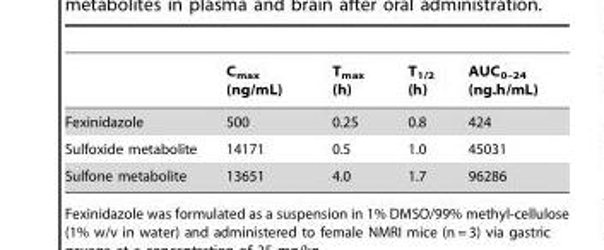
<table><thead><tr><td></td><td>C<sub>max</sub> (ng/mL)</td><td>T<sub>max</sub> (h)</td><td>T<sub>1/2</sub> (h)</td><td>AUC<sub>0–24</sub> (ng.h/mL)</td></tr></thead><tbody><tr><td>Fexinidazole</td><td>500</td><td>0.25</td><td>0.8</td><td>424</td></tr><tr><td>Sulfoxide metabolite</td><td>14171</td><td>0.5</td><td>1.0</td><td>45031</td></tr><tr><td>Sulfone metabolite</td><td>13651</td><td>4.0</td><td>1.7</td><td>96286</td></tr></tbody></table>